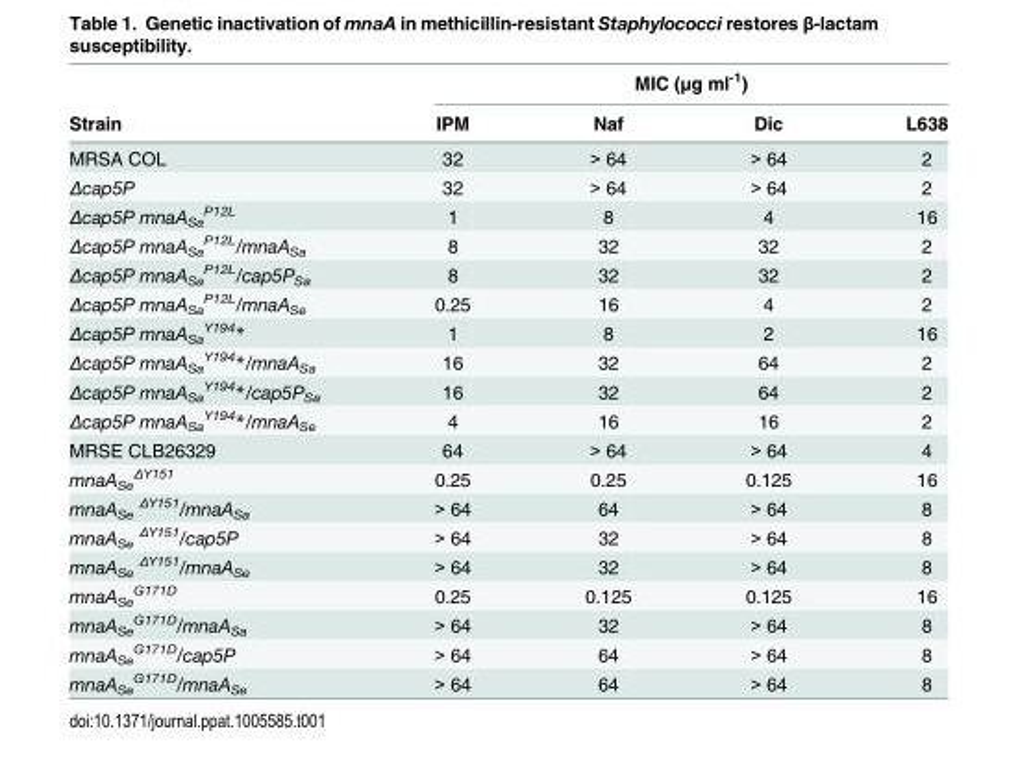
<table><thead><tr><td rowspan="2">Strain</td><td colspan="4">MIC (μg ml<sup>-1</sup>)</td></tr><tr><td>IPM</td><td>Naf</td><td>Dic</td><td>L638</td></tr></thead><tbody><tr><td>MRSA COL</td><td>32</td><td>&gt; 64</td><td>&gt; 64</td><td>2</td></tr><tr><td>Δcap5P</td><td>32</td><td>&gt; 64</td><td>&gt; 64</td><td>2</td></tr><tr><td>Δcap5P mnaA<sub>Sa</sub> <sup>P12L</sup></td><td>1</td><td>8</td><td>4</td><td>16</td></tr><tr><td>Δcap5P mnaA<sub>Sa</sub> <sup>P12L</sup>/mnaA<sub>Sa</sub></td><td>8</td><td>32</td><td>32</td><td>2</td></tr><tr><td>Δcap5P mnaA<sub>Sa</sub> <sup>P12L</sup>/cap5P<sub>Sa</sub></td><td>8</td><td>32</td><td>32</td><td>2</td></tr><tr><td>Δcap5P mnaA<sub>Sa</sub> <sup>P12L</sup>/mnaA<sub>Se</sub></td><td>0.25</td><td>16</td><td>4</td><td>2</td></tr><tr><td>Δcap5P mnaA<sub>Sa</sub> <sup>Y194</sup>*</td><td>1</td><td>8</td><td>2</td><td>16</td></tr><tr><td>Δcap5P mnaA<sub>Sa</sub> <sup>Y194</sup>*/mnaA<sub>Sa</sub></td><td>16</td><td>32</td><td>64</td><td>2</td></tr><tr><td>Δcap5P mnaA<sub>Sa</sub> <sup>Y194</sup>*/cap5P<sub>Sa</sub></td><td>16</td><td>32</td><td>64</td><td>2</td></tr><tr><td>Δcap5P mnaA<sub>Sa</sub> <sup>Y194</sup>*/mnaA<sub>Se</sub></td><td>4</td><td>16</td><td>16</td><td>2</td></tr><tr><td>MRSE CLB26329</td><td>64</td><td>&gt; 64</td><td>&gt; 64</td><td>4</td></tr><tr><td>mnaA<sub>Se</sub> <sup>ΔY151</sup></td><td>0.25</td><td>0.25</td><td>0.125</td><td>16</td></tr><tr><td>mnaA<sub>Se</sub> <sup>ΔY151</sup>/mnaA<sub>Sa</sub></td><td>&gt; 64</td><td>64</td><td>&gt; 64</td><td>8</td></tr><tr><td>mnaA<sub>Se</sub> <sup>ΔY151</sup>/cap5P</td><td>&gt; 64</td><td>32</td><td>&gt; 64</td><td>8</td></tr><tr><td>mnaA<sub>Se</sub> <sup>ΔY151</sup>/mnaA<sub>Se</sub></td><td>&gt; 64</td><td>32</td><td>&gt; 64</td><td>8</td></tr><tr><td>mnaA<sub>Se</sub> <sup>G171D</sup></td><td>0.25</td><td>0.125</td><td>0.125</td><td>16</td></tr><tr><td>mnaA<sub>Se</sub> <sup>G171D</sup>/mnaA<sub>Sa</sub></td><td>&gt; 64</td><td>32</td><td>&gt; 64</td><td>8</td></tr><tr><td>mnaA<sub>Se</sub> <sup>G171D</sup>/cap5P</td><td>&gt; 64</td><td>64</td><td>&gt; 64</td><td>8</td></tr><tr><td>mnaA<sub>Se</sub> <sup>G171D</sup>/mnaA<sub>Se</sub></td><td>&gt; 64</td><td>64</td><td>&gt; 64</td><td>8</td></tr></tbody></table>